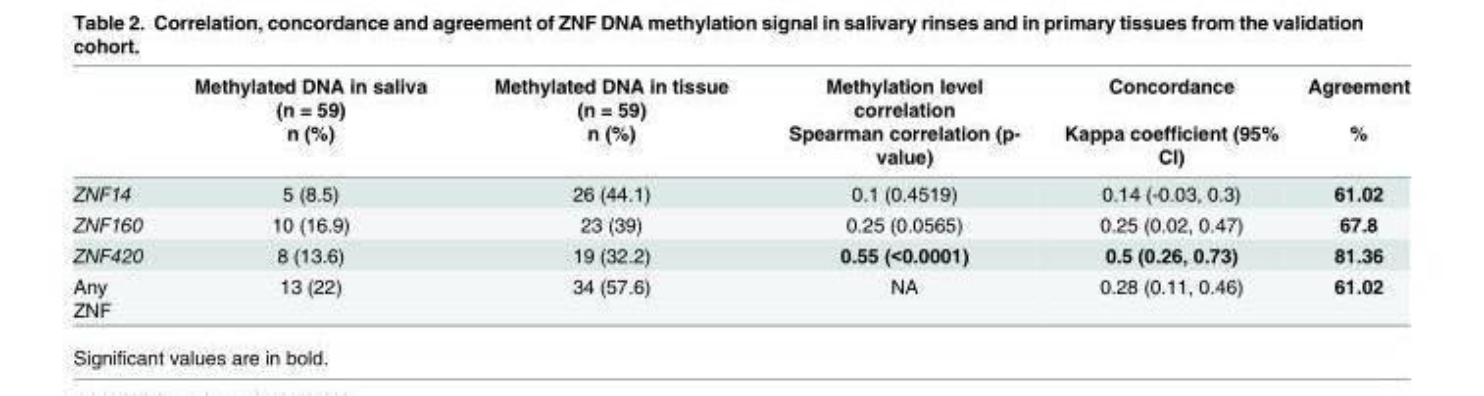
<table><thead><tr><td rowspan="2"></td><td rowspan="2">Methylated DNA in saliva (n = 59) n (%)</td><td rowspan="2">Methylated DNA in tissue (n = 59) n (%)</td><td rowspan="2">Methylation level correlation Spearman correlation (p- value)</td><td rowspan="2">Concordance Kappa coefficient (95% CI)</td><td rowspan="2">Agreement %</td></tr><tr></tr></thead><tbody><tr><td>ZNF14</td><td>5 (8.5)</td><td>26 (44.1)</td><td>0.1 (0.4519)</td><td>0.14 (-0.03, 0.3)</td><td>61.02</td></tr><tr><td>ZNF160</td><td>10 (16.9)</td><td>23 (39)</td><td>0.25 (0.0565)</td><td>0.25 (0.02, 0.47)</td><td>67.8</td></tr><tr><td>ZNF420</td><td>8 (13.6)</td><td>19 (32.2)</td><td>0.55 (&lt;0.0001)</td><td>0.5 (0.26, 0.73)</td><td>81.36</td></tr><tr><td>Any ZNF</td><td>13 (22)</td><td>34 (57.6)</td><td>NA</td><td>0.28 (0.11, 0.46)</td><td>61.02</td></tr></tbody></table>